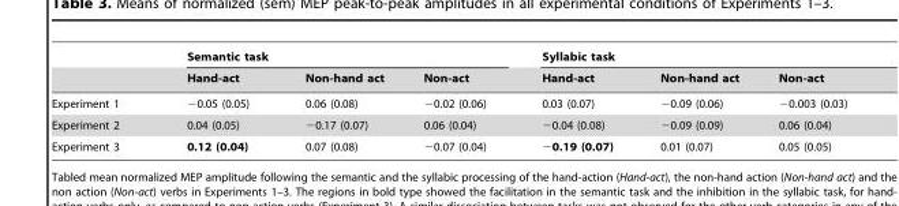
<table><thead><tr><td rowspan="2"></td><td rowspan="2">Semantic task Hand-act</td><td rowspan="2">Non-hand act</td><td rowspan="2">Non-act</td><td rowspan="2">Syllabic task Hand-act</td><td rowspan="2">Non-hand act</td><td rowspan="2">Non-act</td></tr><tr></tr></thead><tbody><tr><td>Experiment 1</td><td>−0.05 (0.05)</td><td>0.06 (0.08)</td><td>−0.02 (0.06)</td><td>0.03 (0.07)</td><td>−0.09 (0.06)</td><td>−0.003 (0.03)</td></tr><tr><td>Experiment 2</td><td>0.04 (0.05)</td><td>−0.17 (0.07)</td><td>0.06 (0.04)</td><td>−0.04 (0.08)</td><td>−0.09 (0.09)</td><td>0.06 (0.04)</td></tr><tr><td>Experiment 3</td><td>0.12 (0.04)</td><td>0.07 (0.08)</td><td>−0.07 (0.04)</td><td>−0.19 (0.07)</td><td>0.01 (0.07)</td><td>0.05 (0.05)</td></tr></tbody></table>